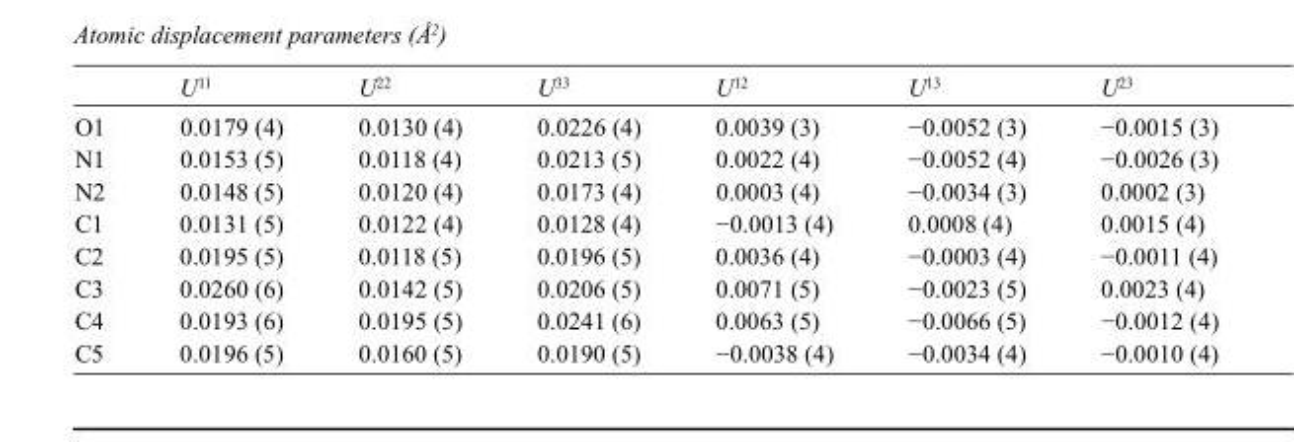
<table><thead><tr><td></td><td>U<sup>11</sup></td><td>U<sup>22</sup></td><td>U<sup>33</sup></td><td>U<sup>12</sup></td><td>U<sup>13</sup></td><td>U<sup>23</sup></td></tr></thead><tbody><tr><td>O1</td><td>0.0179 (4)</td><td>0.0130 (4)</td><td>0.0226 (4)</td><td>0.0039 (3)</td><td>−0.0052 (3)</td><td>−0.0015 (3)</td></tr><tr><td>N1</td><td>0.0153 (5)</td><td>0.0118 (4)</td><td>0.0213 (5)</td><td>0.0022 (4)</td><td>−0.0052 (4)</td><td>−0.0026 (3)</td></tr><tr><td>N2</td><td>0.0148 (5)</td><td>0.0120 (4)</td><td>0.0173 (4)</td><td>0.0003 (4)</td><td>−0.0034 (3)</td><td>0.0002 (3)</td></tr><tr><td>C1</td><td>0.0131 (5)</td><td>0.0122 (4)</td><td>0.0128 (4)</td><td>−0.0013 (4)</td><td>0.0008 (4)</td><td>0.0015 (4)</td></tr><tr><td>C2</td><td>0.0195 (5)</td><td>0.0118 (5)</td><td>0.0196 (5)</td><td>0.0036 (4)</td><td>−0.0003 (4)</td><td>−0.0011 (4)</td></tr><tr><td>C3</td><td>0.0260 (6)</td><td>0.0142 (5)</td><td>0.0206 (5)</td><td>0.0071 (5)</td><td>−0.0023 (5)</td><td>0.0023 (4)</td></tr><tr><td>C4</td><td>0.0193 (6)</td><td>0.0195 (5)</td><td>0.0241 (6)</td><td>0.0063 (5)</td><td>−0.0066 (5)</td><td>−0.0012 (4)</td></tr><tr><td>C5</td><td>0.0196 (5)</td><td>0.0160 (5)</td><td>0.0190 (5)</td><td>−0.0038 (4)</td><td>−0.0034 (4)</td><td>−0.0010 (4)</td></tr></tbody></table>